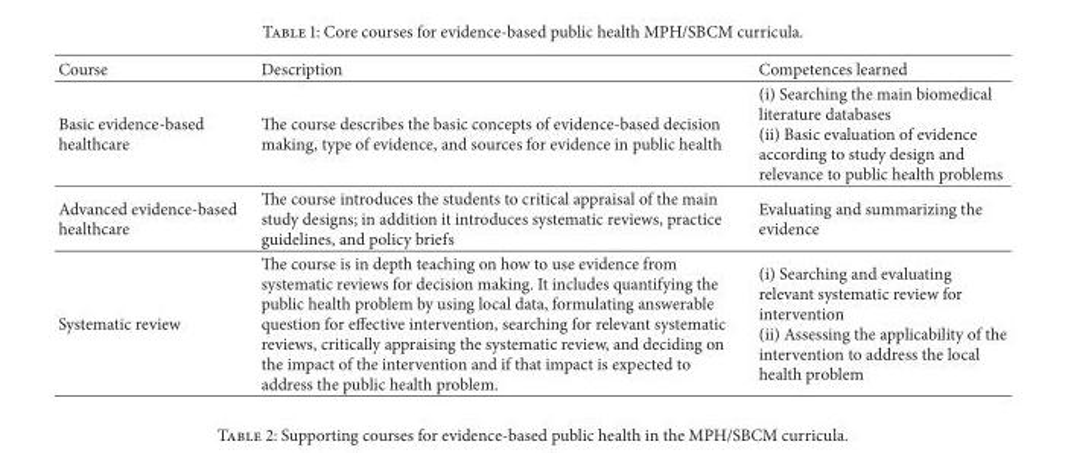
<table><thead><tr><td>Course</td><td>Description</td><td>Competences learned</td></tr></thead><tbody><tr><td>Basic evidence-based healthcare</td><td>The course describes the basic concepts of evidence-based decision making, type of evidence, and sources for evidence in public health</td><td>(i) Searching the main biomedical literature databases (ii) Basic evaluation of evidence according to study design and relevance to public health problems</td></tr><tr><td>Advanced evidence-based healthcare</td><td>The course introduces the students to critical appraisal of the main study designs; in addition it introduces systematic reviews, practice guidelines, and policy briefs</td><td>Evaluating and summarizing the evidence</td></tr><tr><td>Systematic review</td><td>The course is in depth teaching on how to use evidence from systematic reviews for decision making. It includes quantifying the public health problem by using local data, formulating answerable question for effective intervention, searching for relevant systematic reviews, critically appraising the systematic review, and deciding on the impact of the intervention and if that impact is expected to address the public health problem.</td><td>(i) Searching and evaluating relevant systematic review for intervention (ii) Assessing the applicability of the intervention to address the local health problem</td></tr></tbody></table>